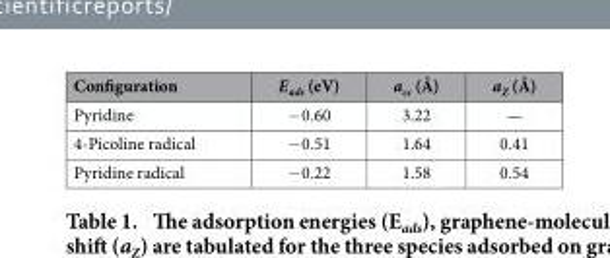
<table><thead><tr><td>Configuration</td><td>E<sub>ads</sub> (eV)</td><td>a<sub>cc</sub> (Å)</td><td>a<sub>Z</sub> (Å)</td></tr></thead><tbody><tr><td>Pyridine</td><td>− 0.60</td><td>3.22</td><td>—</td></tr><tr><td>4-Picoline radical</td><td>− 0.51</td><td>1.64</td><td>0.41</td></tr><tr><td>Pyridine radical</td><td>− 0.22</td><td>1.58</td><td>0.54</td></tr></tbody></table>